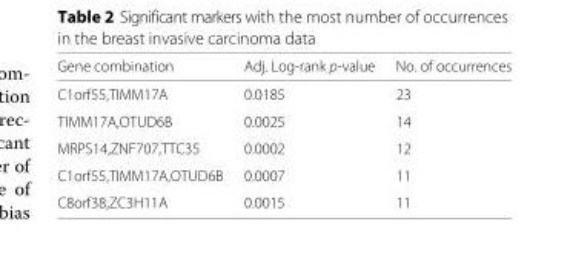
<table><thead><tr><td>Gene combination</td><td>Adj. Log-rank p-value</td><td>No. of occurrences</td></tr></thead><tbody><tr><td>C1orf55,TIMM17A</td><td>0.0185</td><td>23</td></tr><tr><td>TIMM17A,OTUD6B</td><td>0.0025</td><td>14</td></tr><tr><td>MRPS14,ZNF707,TTC35</td><td>0.0002</td><td>12</td></tr><tr><td>C1orf55,TIMM17A,OTUD6B</td><td>0.0007</td><td>11</td></tr><tr><td>C8orf38,ZC3H11A</td><td>0.0015</td><td>11</td></tr></tbody></table>